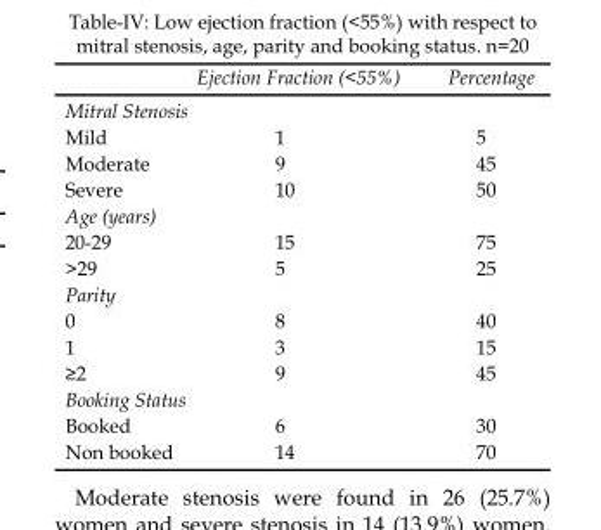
<table><thead><tr><td></td><td>Ejection Fraction (&lt;55%)</td><td>Percentage</td></tr></thead><tbody><tr><td colspan="3">Mitral Stenosis</td></tr><tr><td>Mild</td><td>1</td><td>5</td></tr><tr><td>Moderate</td><td>9</td><td>45</td></tr><tr><td>Severe</td><td>10</td><td>50</td></tr><tr><td colspan="3">Age (years)</td></tr><tr><td>20-29</td><td>15</td><td>75</td></tr><tr><td>&gt;29</td><td>5</td><td>25</td></tr><tr><td colspan="3">Parity</td></tr><tr><td>0</td><td>8</td><td>40</td></tr><tr><td>1</td><td>3</td><td>15</td></tr><tr><td>≥2</td><td>9</td><td>45</td></tr><tr><td colspan="3">Booking Status</td></tr><tr><td>Booked</td><td>6</td><td>30</td></tr><tr><td>Non booked</td><td>14</td><td>70</td></tr></tbody></table>